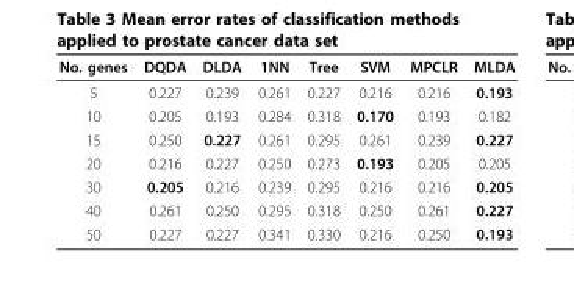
<table><thead><tr><td>No. genes</td><td>DQDA</td><td>DLDA</td><td>1NN</td><td>Tree</td><td>SVM</td><td>MPCLR</td><td>MLDA</td></tr></thead><tbody><tr><td>5</td><td>0.227</td><td>0.239</td><td>0.261</td><td>0.227</td><td>0.216</td><td>0.216</td><td>0.193</td></tr><tr><td>10</td><td>0.205</td><td>0.193</td><td>0.284</td><td>0.318</td><td>0.170</td><td>0.193</td><td>0.182</td></tr><tr><td>15</td><td>0.250</td><td>0.227</td><td>0.261</td><td>0.295</td><td>0.261</td><td>0.239</td><td>0.227</td></tr><tr><td>20</td><td>0.216</td><td>0.227</td><td>0.250</td><td>0.273</td><td>0.193</td><td>0.205</td><td>0.205</td></tr><tr><td>30</td><td>0.205</td><td>0.216</td><td>0.239</td><td>0.295</td><td>0.216</td><td>0.216</td><td>0.205</td></tr><tr><td>40</td><td>0.261</td><td>0.250</td><td>0.295</td><td>0.318</td><td>0.250</td><td>0.261</td><td>0.227</td></tr><tr><td>50</td><td>0.227</td><td>0.227</td><td>0.341</td><td>0.330</td><td>0.216</td><td>0.250</td><td>0.193</td></tr></tbody></table>